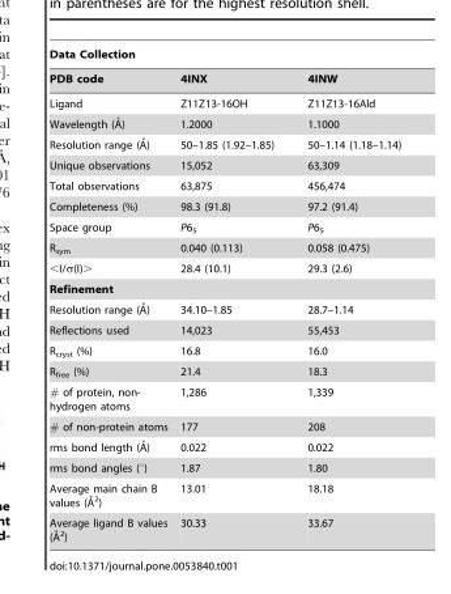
<table><thead><tr><td colspan="3">Data Collection</td></tr><tr><td>PDB code</td><td>4INX</td><td>4INW</td></tr></thead><tbody><tr><td>Ligand</td><td>Z11Z13-16OH</td><td>Z11Z13-16Ald</td></tr><tr><td>Wavelength (A˚)</td><td>1.2000</td><td>1.1000</td></tr><tr><td>Resolution range (A˚)</td><td>50–1.85 (1.92–1.85)</td><td>50–1.14 (1.18–1.14)</td></tr><tr><td>Unique observations</td><td>15,052</td><td>63,309</td></tr><tr><td>Total observations</td><td>63,875</td><td>456,474</td></tr><tr><td>Completeness (%)</td><td>98.3 (91.8)</td><td>97.2 (91.4)</td></tr><tr><td>Space group</td><td>P6<sub>5</sub></td><td>P6<sub>5</sub></td></tr><tr><td>R<sub>sym</sub></td><td>0.040 (0.113)</td><td>0.058 (0.475)</td></tr><tr><td>&lt;I/σ(I)&gt;</td><td>28.4 (10.1)</td><td>29.3 (2.6)</td></tr><tr><td colspan="3">Refinement</td></tr><tr><td>Resolution range (A˚)</td><td>34.10–1.85</td><td>28.7–1.14</td></tr><tr><td>Reflections used</td><td>14,023</td><td>55,453</td></tr><tr><td>R<sub>cryst</sub> (%)</td><td>16.8</td><td>16.0</td></tr><tr><td>R<sub>free</sub> (%)</td><td>21.4</td><td>18.3</td></tr><tr><td># of protein, non- hydrogen atoms</td><td>1,286</td><td>1,339</td></tr><tr><td># of non-protein atoms</td><td>177</td><td>208</td></tr><tr><td>rms bond length (A˚)</td><td>0.022</td><td>0.022</td></tr><tr><td>rms bond angles (°)</td><td>1.87</td><td>1.80</td></tr><tr><td>Average main chain B values (A˚ 2)</td><td>13.01</td><td>18.18</td></tr><tr><td>Average ligand B values (A˚2)</td><td>30.33</td><td>33.67</td></tr></tbody></table>